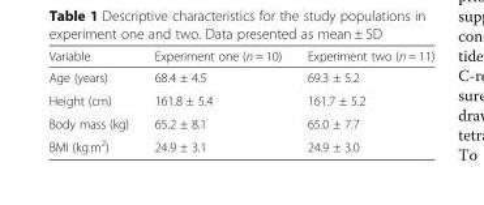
<table><thead><tr><td>Variable</td><td>Experiment one (n = 10)</td><td>Experiment two (n = 11)</td></tr></thead><tbody><tr><td>Age (years)</td><td>68.4 ± 4.5</td><td>69.3 ± 5.2</td></tr><tr><td>Height (cm)</td><td>161.8 ± 5.4</td><td>161.7 ± 5.2</td></tr><tr><td>Body mass (kg)</td><td>65.2 ± 8.1</td><td>65.0 ± 7.7</td></tr><tr><td>BMI (kg<sup>.</sup>m<sup>2</sup>)</td><td>24.9 ± 3.1</td><td>24.9 ± 3.0</td></tr></tbody></table>